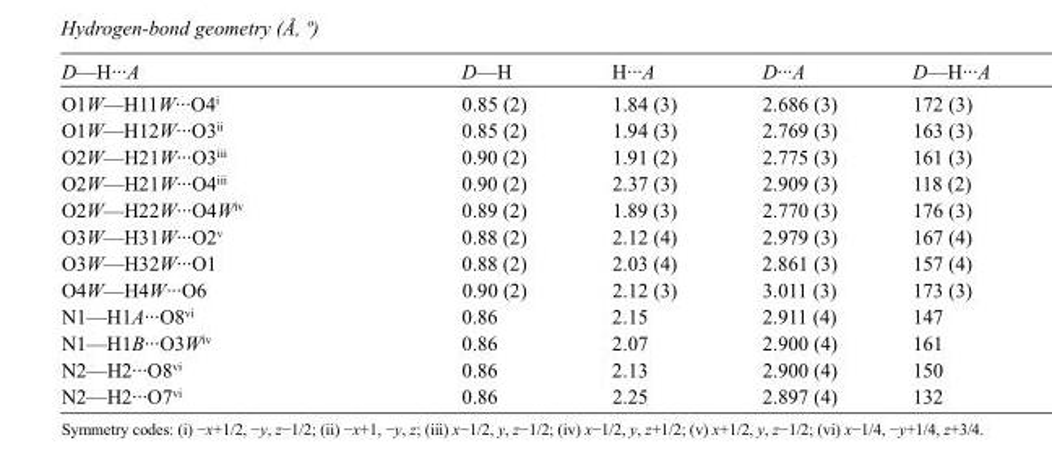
<table><tbody><tr><td>D—H···A</td><td>D—H</td><td>H···A</td><td>D···A</td><td>D—H···A</td></tr><tr><td>O1W—H11W···O4<sup>i</sup></td><td>0.85 (2)</td><td>1.84 (3)</td><td>2.686 (3)</td><td>172 (3)</td></tr><tr><td>O1W—H12W···O3<sup>ii</sup></td><td>0.85 (2)</td><td>1.94 (3)</td><td>2.769 (3)</td><td>163 (3)</td></tr><tr><td>O2W—H21W···O3<sup>iii</sup></td><td>0.90 (2)</td><td>1.91 (2)</td><td>2.775 (3)</td><td>161 (3)</td></tr><tr><td>O2W—H21W···O4<sup>iii</sup></td><td>0.90 (2)</td><td>2.37 (3)</td><td>2.909 (3)</td><td>118 (2)</td></tr><tr><td>O2W—H22W···O4W<sup>iv</sup></td><td>0.89 (2)</td><td>1.89 (3)</td><td>2.770 (3)</td><td>176 (3)</td></tr><tr><td>O3W—H31W···O2<sup>v</sup></td><td>0.88 (2)</td><td>2.12 (4)</td><td>2.979 (3)</td><td>167 (4)</td></tr><tr><td>O3W—H32W···O1</td><td>0.88 (2)</td><td>2.03 (4)</td><td>2.861 (3)</td><td>157 (4)</td></tr><tr><td>O4W—H4W···O6</td><td>0.90 (2)</td><td>2.12 (3)</td><td>3.011 (3)</td><td>173 (3)</td></tr><tr><td>N1—H1A···O8<sup>vi</sup></td><td>0.86</td><td>2.15</td><td>2.911 (4)</td><td>147</td></tr><tr><td>N1—H1B···O3W<sup>iv</sup></td><td>0.86</td><td>2.07</td><td>2.900 (4)</td><td>161</td></tr><tr><td>N2—H2···O8<sup>vi</sup></td><td>0.86</td><td>2.13</td><td>2.900 (4)</td><td>150</td></tr><tr><td>N2—H2···O7<sup>vi</sup></td><td>0.86</td><td>2.25</td><td>2.897 (4)</td><td>132</td></tr></tbody></table>